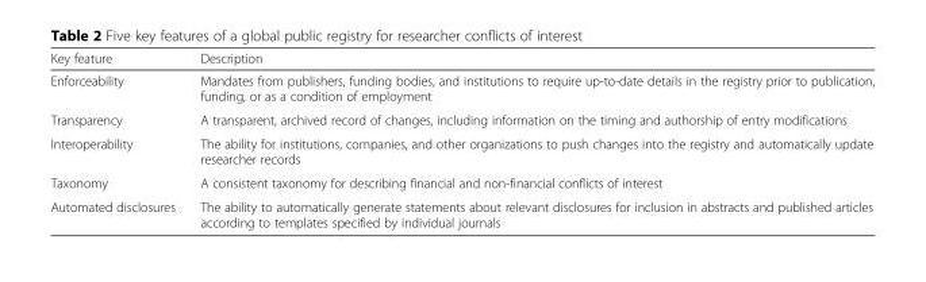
<table><thead><tr><td>Key feature</td><td>Description</td></tr></thead><tbody><tr><td>Enforceability</td><td>Mandates from publishers, funding bodies, and institutions to require up-to-date details in the registry prior to publication, funding, or as a condition of employment</td></tr><tr><td>Transparency</td><td>A transparent, archived record of changes, including information on the timing and authorship of entry modifications</td></tr><tr><td>Interoperability</td><td>The ability for institutions, companies, and other organizations to push changes into the registry and automatically update researcher records</td></tr><tr><td>Taxonomy</td><td>A consistent taxonomy for describing financial and non-financial conflicts of interest</td></tr><tr><td>Automated disclosures</td><td>The ability to automatically generate statements about relevant disclosures for inclusion in abstracts and published articles according to templates specified by individual journals</td></tr></tbody></table>